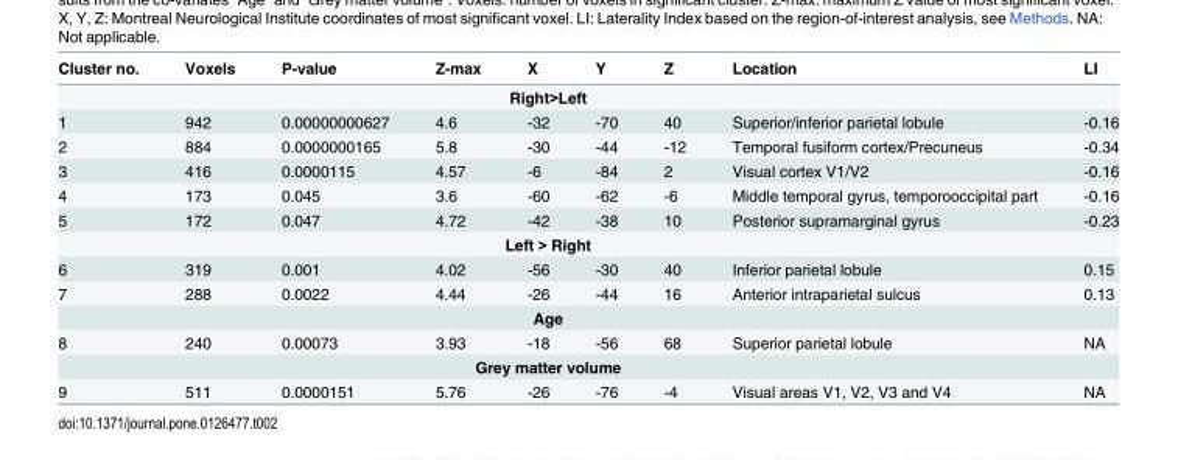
<table><thead><tr><td>Cluster no.</td><td>Voxels</td><td>P-value</td><td>Z-max</td><td>X</td><td>Y</td><td>Z</td><td>Location</td><td>LI</td></tr></thead><tbody><tr><td colspan="9">Right&gt;Left</td></tr><tr><td>1</td><td>942</td><td>0.00000000627</td><td>4.6</td><td>-32</td><td>-70</td><td>40</td><td>Superior/inferior parietal lobule</td><td>-0.16</td></tr><tr><td>2</td><td>884</td><td>0.0000000165</td><td>5.8</td><td>-30</td><td>-44</td><td>-12</td><td>Temporal fusiform cortex/Precuneus</td><td>-0.34</td></tr><tr><td>3</td><td>416</td><td>0.0000115</td><td>4.57</td><td>-6</td><td>-84</td><td>2</td><td>Visual cortex V1/V2</td><td>-0.16</td></tr><tr><td>4</td><td>173</td><td>0.045</td><td>3.6</td><td>-60</td><td>-62</td><td>-6</td><td>Middle temporal gyrus, temporooccipital part</td><td>-0.16</td></tr><tr><td>5</td><td>172</td><td>0.047</td><td>4.72</td><td>-42</td><td>-38</td><td>10</td><td>Posterior supramarginal gyrus</td><td>-0.23</td></tr><tr><td colspan="9">Left &gt; Right</td></tr><tr><td>6</td><td>319</td><td>0.001</td><td>4.02</td><td>-56</td><td>-30</td><td>40</td><td>Inferior parietal lobule</td><td>0.15</td></tr><tr><td>7</td><td>288</td><td>0.0022</td><td>4.44</td><td>-26</td><td>-44</td><td>16</td><td>Anterior intraparietal sulcus</td><td>0.13</td></tr><tr><td colspan="9">Age</td></tr><tr><td>8</td><td>240</td><td>0.00073</td><td>3.93</td><td>-18</td><td>-56</td><td>68</td><td>Superior parietal lobule</td><td>NA</td></tr><tr><td colspan="9">Grey matter volume</td></tr><tr><td>9</td><td>511</td><td>0.0000151</td><td>5.76</td><td>-26</td><td>-76</td><td>-4</td><td>Visual areas V1, V2, V3 and V4</td><td>NA</td></tr></tbody></table>